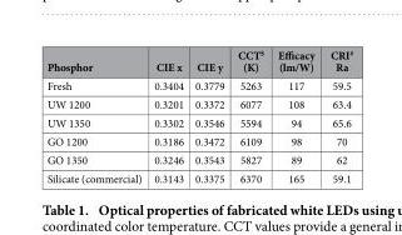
<table><thead><tr><td>Phosphor</td><td>CIE x</td><td>CIE y</td><td>CCT$ (K)</td><td>Efficacy (lm/W)</td><td>CRI# Ra</td></tr></thead><tbody><tr><td>Fresh</td><td>0.3404</td><td>0.3779</td><td>5263</td><td>117</td><td>59.5</td></tr><tr><td>UW 1200</td><td>0.3201</td><td>0.3372</td><td>6077</td><td>108</td><td>63.4</td></tr><tr><td>UW 1350</td><td>0.3302</td><td>0.3546</td><td>5594</td><td>94</td><td>65.6</td></tr><tr><td>GO 1200</td><td>0.3186</td><td>0.3472</td><td>6109</td><td>98</td><td>70</td></tr><tr><td>GO 1350</td><td>0.3246</td><td>0.3543</td><td>5827</td><td>89</td><td>62</td></tr><tr><td>Silicate (commercial)</td><td>0.3143</td><td>0.3375</td><td>6370</td><td>165</td><td>59.1</td></tr></tbody></table>